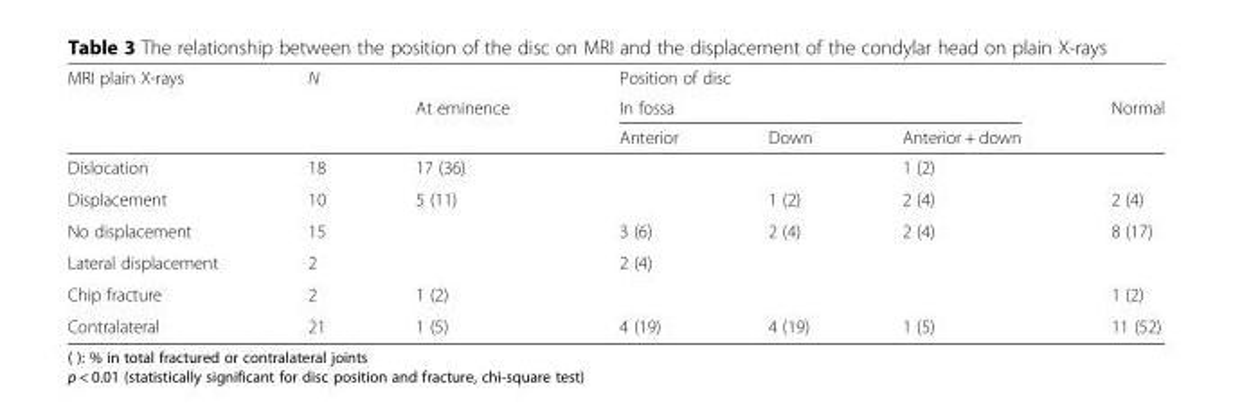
<table><thead><tr><td rowspan="3">MRI plain X-rays</td><td rowspan="3">N</td><td rowspan="3">At eminence</td><td rowspan="2" colspan="3">Position of disc In fossa</td><td rowspan="3">Normal</td></tr><tr></tr><tr><td>Anterior</td><td>Down</td><td>Anterior + down</td></tr></thead><tbody><tr><td>Dislocation</td><td>18</td><td>17 (36)</td><td></td><td></td><td>1 (2)</td><td></td></tr><tr><td>Displacement</td><td>10</td><td>5 (11)</td><td></td><td>1 (2)</td><td>2 (4)</td><td>2 (4)</td></tr><tr><td>No displacement</td><td>15</td><td></td><td>3 (6)</td><td>2 (4)</td><td>2 (4)</td><td>8 (17)</td></tr><tr><td>Lateral displacement</td><td>2</td><td></td><td>2 (4)</td><td></td><td></td><td></td></tr><tr><td>Chip fracture</td><td>2</td><td>1 (2)</td><td></td><td></td><td></td><td>1 (2)</td></tr><tr><td>Contralateral</td><td>21</td><td>1 (5)</td><td>4 (19)</td><td>4 (19)</td><td>1 (5)</td><td>11 (52)</td></tr></tbody></table>